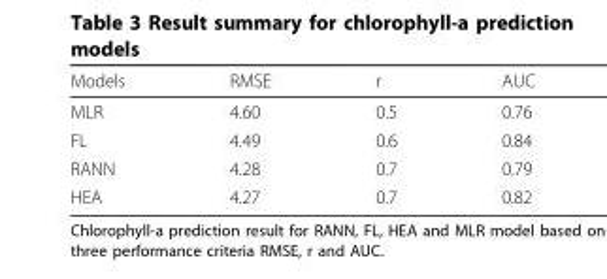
<table><thead><tr><td>Models</td><td>RMSE</td><td>r</td><td>AUC</td></tr></thead><tbody><tr><td>MLR</td><td>4.60</td><td>0.5</td><td>0.76</td></tr><tr><td>FL</td><td>4.49</td><td>0.6</td><td>0.84</td></tr><tr><td>RANN</td><td>4.28</td><td>0.7</td><td>0.79</td></tr><tr><td>HEA</td><td>4.27</td><td>0.7</td><td>0.82</td></tr></tbody></table>